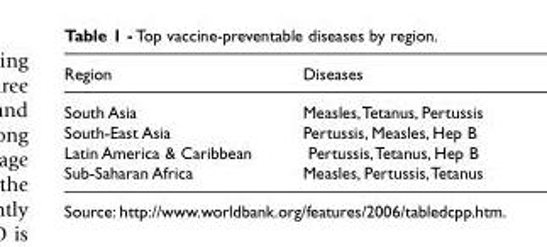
<table><thead><tr><td>Region</td><td>Diseases</td></tr></thead><tbody><tr><td>South Asia</td><td>Measles,Tetanus, Pertussis</td></tr><tr><td>South-East Asia</td><td>Pertussis, Measles, Hep B</td></tr><tr><td>Latin America &amp; Caribbean</td><td>Pertussis,Tetanus, Hep B</td></tr><tr><td>Sub-Saharan Africa</td><td>Measles, Pertussis,Tetanus</td></tr></tbody></table>